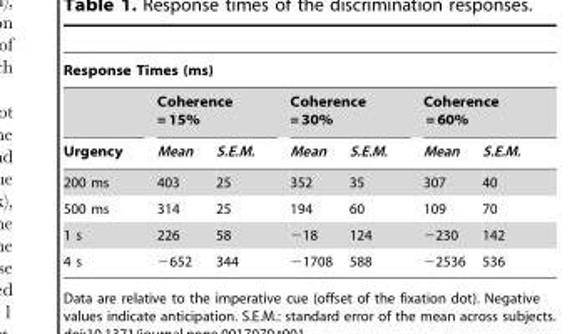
<table><thead><tr><td colspan="7">Response Times (ms)</td></tr><tr><td rowspan="2">Urgency</td><td colspan="2">Coherence = 15%</td><td colspan="2">Coherence = 30%</td><td colspan="2">Coherence = 60%</td></tr><tr><td>Mean</td><td>S.E.M.</td><td>Mean</td><td>S.E.M.</td><td>Mean</td><td>S.E.M.</td></tr></thead><tbody><tr><td>200 ms</td><td>403</td><td>25</td><td>352</td><td>35</td><td>307</td><td>40</td></tr><tr><td>500 ms</td><td>314</td><td>25</td><td>194</td><td>60</td><td>109</td><td>70</td></tr><tr><td>1 s</td><td>226</td><td>58</td><td>−18</td><td>124</td><td>−230</td><td>142</td></tr><tr><td>4 s</td><td>−652</td><td>344</td><td>−1708</td><td>588</td><td>−2536</td><td>536</td></tr></tbody></table>